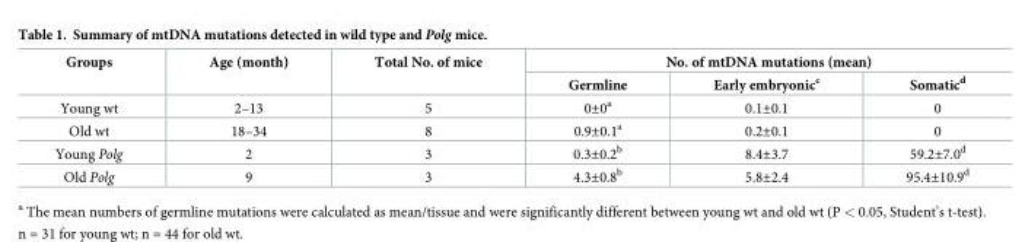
<table><thead><tr><td rowspan="2">Groups</td><td rowspan="2">Age (month)</td><td rowspan="2">Total No. of mice</td><td colspan="3">No. of mtDNA mutations (mean)</td></tr><tr><td>Germline</td><td>Early embryonic<sup>c</sup></td><td>Somatic<sup>d</sup></td></tr></thead><tbody><tr><td>Young wt</td><td>2–13</td><td>5</td><td>0±0<sup>a</sup></td><td>0.1±0.1</td><td>0</td></tr><tr><td>Old wt</td><td>18–34</td><td>8</td><td>0.9±0.1<sup>a</sup></td><td>0.2±0.1</td><td>0</td></tr><tr><td>Young Polg</td><td>2</td><td>3</td><td>0.3±0.2<sup>b</sup></td><td>8.4±3.7</td><td>59.2±7.0<sup>d</sup></td></tr><tr><td>Old Polg</td><td>9</td><td>3</td><td>4.3±0.8<sup>b</sup></td><td>5.8±2.4</td><td>95.4±10.9<sup>d</sup></td></tr></tbody></table>